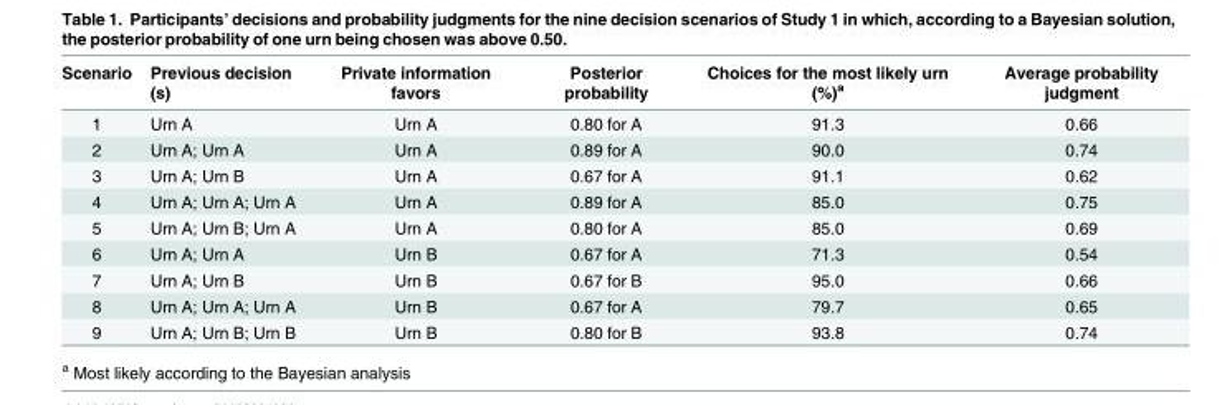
<table><thead><tr><td>Scenario</td><td>Previous decision (s)</td><td>Private information favors</td><td>Posterior probability</td><td>Choices for the most likely urn (%)<sup>a</sup></td><td>Average probability judgment</td></tr></thead><tbody><tr><td>1</td><td>Urn A</td><td>Urn A</td><td>0.80 for A</td><td>91.3</td><td>0.66</td></tr><tr><td>2</td><td>Urn A; Urn A</td><td>Urn A</td><td>0.89 for A</td><td>90.0</td><td>0.74</td></tr><tr><td>3</td><td>Urn A; Urn B</td><td>Urn A</td><td>0.67 for A</td><td>91.1</td><td>0.62</td></tr><tr><td>4</td><td>Urn A; Urn A; Urn A</td><td>Urn A</td><td>0.89 for A</td><td>85.0</td><td>0.75</td></tr><tr><td>5</td><td>Urn A; Urn B; Urn A</td><td>Urn A</td><td>0.80 for A</td><td>85.0</td><td>0.69</td></tr><tr><td>6</td><td>Urn A; Urn A</td><td>Urn B</td><td>0.67 for A</td><td>71.3</td><td>0.54</td></tr><tr><td>7</td><td>Urn A; Urn B</td><td>Urn B</td><td>0.67 for B</td><td>95.0</td><td>0.66</td></tr><tr><td>8</td><td>Urn A; Urn A; Urn A</td><td>Urn B</td><td>0.67 for A</td><td>79.7</td><td>0.65</td></tr><tr><td>9</td><td>Urn A; Urn B; Urn B</td><td>Urn B</td><td>0.80 for B</td><td>93.8</td><td>0.74</td></tr></tbody></table>